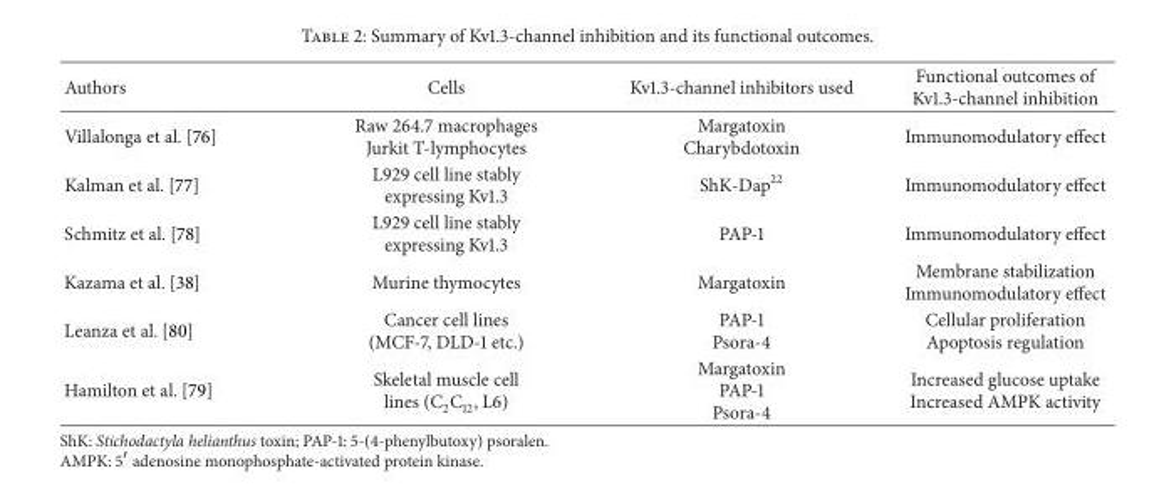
<table><thead><tr><td>Authors</td><td>Cells</td><td>Kv1.3-channel inhibitors used</td><td>Functional outcomes of Kv1.3-channel inhibition</td></tr></thead><tbody><tr><td>Villalonga et al. [76]</td><td>Raw 264.7 macrophages Jurkit T-lymphocytes</td><td>Margatoxin Charybdotoxin</td><td>Immunomodulatory effect</td></tr><tr><td>Kalman et al. [77]</td><td>L929 cell line stably expressing Kv1.3</td><td>ShK-Dap<sup>22</sup></td><td>Immunomodulatory effect</td></tr><tr><td>Schmitz et al. [78]</td><td>L929 cell line stably expressing Kv1.3</td><td>PAP-1</td><td>Immunomodulatory effect</td></tr><tr><td>Kazama et al. [38]</td><td>Murine thymocytes</td><td>Margatoxin</td><td>Membrane stabilization Immunomodulatory effect</td></tr><tr><td>Leanza et al. [80]</td><td>Cancer cell lines (MCF-7, DLD-1 etc.)</td><td>PAP-1 Psora-4</td><td>Cellular proliferation Apoptosis regulation</td></tr><tr><td>Hamilton et al. [79]</td><td>Skeletal muscle cell lines (C<sub>2</sub>C<sub>12</sub>, L6)</td><td>Margatoxin PAP-1 Psora-4</td><td>Increased glucose uptake Increased AMPK activity</td></tr></tbody></table>